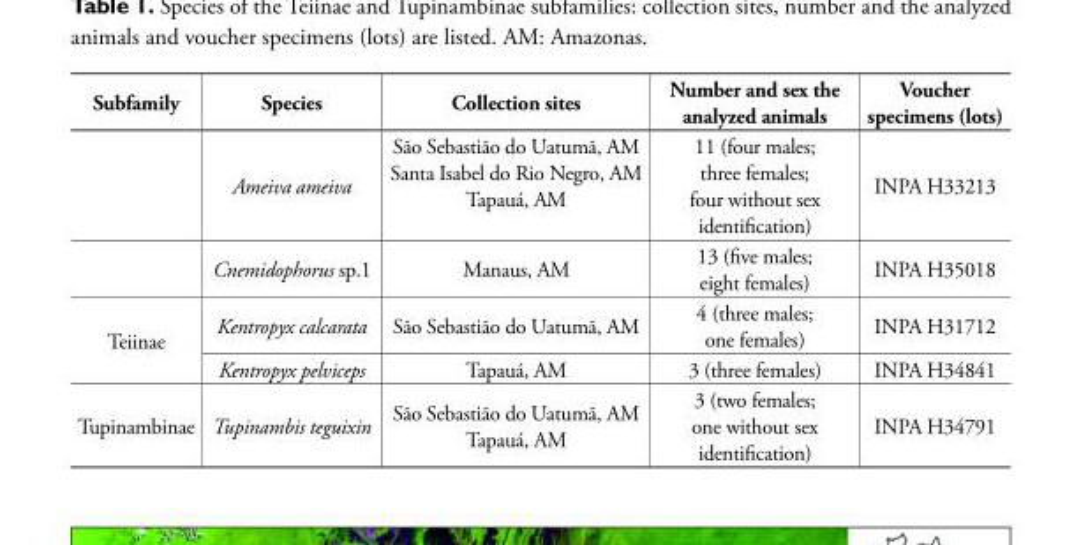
<table><thead><tr><td>Subfamily</td><td>Species</td><td>Collection sites</td><td>Number and sex the analyzed animals</td><td>Voucher specimens (lots)</td></tr></thead><tbody><tr><td></td><td>Ameiva ameiva</td><td>São Sebastião do Uatumã, AM Santa Isabel do Rio Negro, AM Tapauá, AM</td><td>11 (four males; three females; four without sex identification)</td><td>INPA H33213</td></tr><tr><td></td><td>Cnemidophorus sp.1</td><td>Manaus, AM</td><td>13 (five males; eight females)</td><td>INPA H35018</td></tr><tr><td rowspan="2">Teiinae</td><td>Kentropyx calcarata</td><td>São Sebastião do Uatumã, AM</td><td>4 (three males; one females)</td><td>INPA H31712</td></tr><tr><td>Kentropyx pelviceps</td><td>Tapauá, AM</td><td>3 (three females)</td><td>INPA H34841</td></tr><tr><td>Tupinambinae</td><td>Tupinambis teguixin</td><td>São Sebastião do Uatumã, AM Tapauá, AM</td><td>3 (two females; one without sex identification)</td><td>INPA H34791</td></tr></tbody></table>